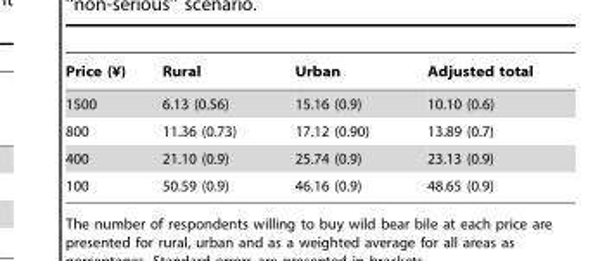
<table><thead><tr><td>Price (¥)</td><td>Rural</td><td>Urban</td><td>Adjusted total</td></tr></thead><tbody><tr><td>1500</td><td>6.13 (0.56)</td><td>15.16 (0.9)</td><td>10.10 (0.6)</td></tr><tr><td>800</td><td>11.36 (0.73)</td><td>17.12 (0.90)</td><td>13.89 (0.7)</td></tr><tr><td>400</td><td>21.10 (0.9)</td><td>25.74 (0.9)</td><td>23.13 (0.9)</td></tr><tr><td>100</td><td>50.59 (0.9)</td><td>46.16 (0.9)</td><td>48.65 (0.9)</td></tr></tbody></table>